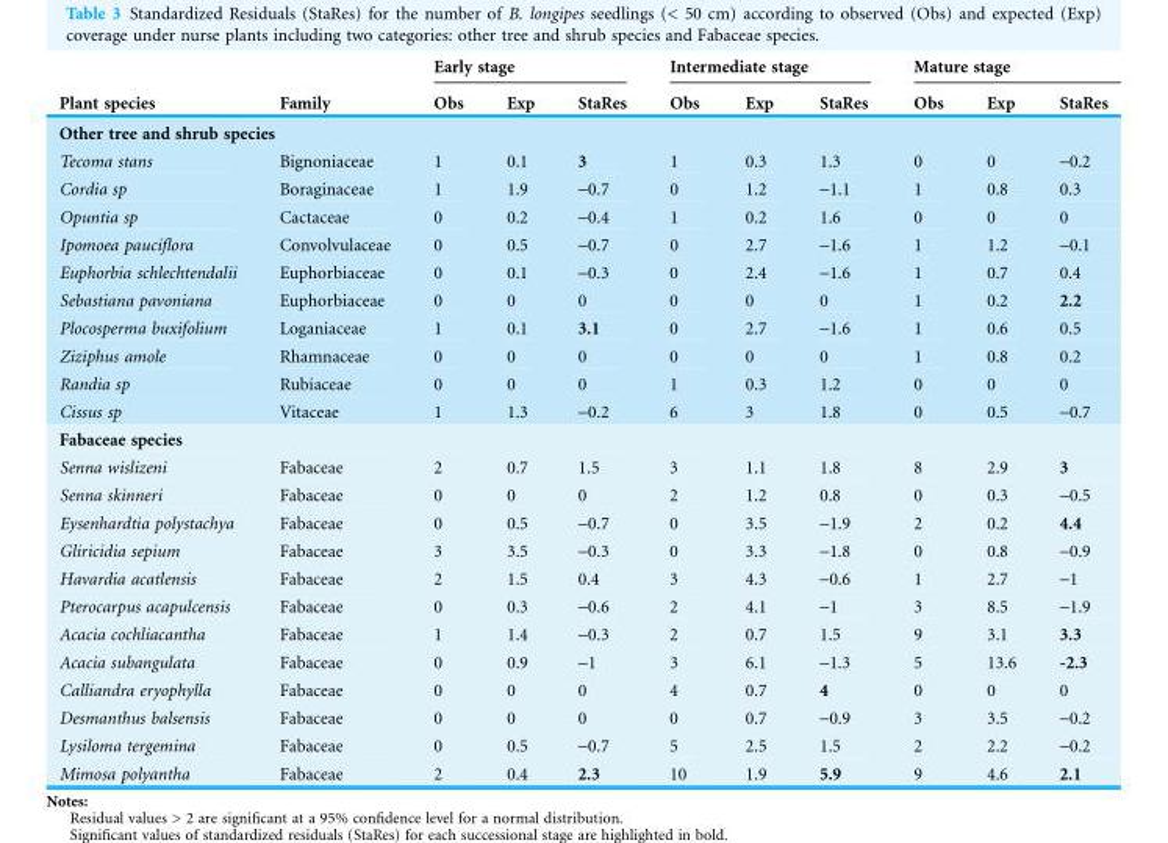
<table><thead><tr><td rowspan="2">Plant species</td><td rowspan="2">Family</td><td colspan="3">Early stage</td><td colspan="3">Intermediate stage</td><td colspan="3">Mature stage</td></tr><tr><td>Obs</td><td>Exp</td><td>StaRes</td><td>Obs</td><td>Exp</td><td>StaRes</td><td>Obs</td><td>Exp</td><td>StaRes</td></tr></thead><tbody><tr><td colspan="11">Other tree and shrub species</td></tr><tr><td>Tecoma stans</td><td>Bignoniaceae</td><td>1</td><td>0.1</td><td>3</td><td>1</td><td>0.3</td><td>1.3</td><td>0</td><td>0</td><td>-0.2</td></tr><tr><td>Cordia sp</td><td>Boraginaceae</td><td>1</td><td>1.9</td><td>-0.7</td><td>0</td><td>1.2</td><td>-1.1</td><td>1</td><td>0.8</td><td>0.3</td></tr><tr><td>Opuntia sp</td><td>Cactaceae</td><td>0</td><td>0.2</td><td>-0.4</td><td>1</td><td>0.2</td><td>1.6</td><td>0</td><td>0</td><td>0</td></tr><tr><td>Ipomoea pauciflora</td><td>Convolvulaceae</td><td>0</td><td>0.5</td><td>-0.7</td><td>0</td><td>2.7</td><td>-1.6</td><td>1</td><td>1.2</td><td>-0.1</td></tr><tr><td>Euphorbia schlechtendalii</td><td>Euphorbiaceae</td><td>0</td><td>0.1</td><td>-0.3</td><td>0</td><td>2.4</td><td>-1.6</td><td>1</td><td>0.7</td><td>0.4</td></tr><tr><td>Sebastiana pavoniana</td><td>Euphorbiaceae</td><td>0</td><td>0</td><td>0</td><td>0</td><td>0</td><td>0</td><td>1</td><td>0.2</td><td>2.2</td></tr><tr><td>Plocosperma buxifolium</td><td>Loganiaceae</td><td>1</td><td>0.1</td><td>3.1</td><td>0</td><td>2.7</td><td>-1.6</td><td>1</td><td>0.6</td><td>0.5</td></tr><tr><td>Ziziphus amole</td><td>Rhamnaceae</td><td>0</td><td>0</td><td>0</td><td>0</td><td>0</td><td>0</td><td>1</td><td>0.8</td><td>0.2</td></tr><tr><td>Randia sp</td><td>Rubiaceae</td><td>0</td><td>0</td><td>0</td><td>1</td><td>0.3</td><td>1.2</td><td>0</td><td>0</td><td>0</td></tr><tr><td>Cissus sp</td><td>Vitaceae</td><td>1</td><td>1.3</td><td>-0.2</td><td>6</td><td>3</td><td>1.8</td><td>0</td><td>0.5</td><td>-0.7</td></tr><tr><td colspan="11">Fabaceae species</td></tr><tr><td>Senna wislizeni</td><td>Fabaceae</td><td>2</td><td>0.7</td><td>1.5</td><td>3</td><td>1.1</td><td>1.8</td><td>8</td><td>2.9</td><td>3</td></tr><tr><td>Senna skinneri</td><td>Fabaceae</td><td>0</td><td>0</td><td>0</td><td>2</td><td>1.2</td><td>0.8</td><td>0</td><td>0.3</td><td>-0.5</td></tr><tr><td>Eysenhardtia polystachya</td><td>Fabaceae</td><td>0</td><td>0.5</td><td>-0.7</td><td>0</td><td>3.5</td><td>-1.9</td><td>2</td><td>0.2</td><td>4.4</td></tr><tr><td>Gliricidia sepium</td><td>Fabaceae</td><td>3</td><td>3.5</td><td>-0.3</td><td>0</td><td>3.3</td><td>-1.8</td><td>0</td><td>0.8</td><td>-0.9</td></tr><tr><td>Havardia acatlensis</td><td>Fabaceae</td><td>2</td><td>1.5</td><td>0.4</td><td>3</td><td>4.3</td><td>-0.6</td><td>1</td><td>2.7</td><td>-1</td></tr><tr><td>Pterocarpus acapulcensis</td><td>Fabaceae</td><td>0</td><td>0.3</td><td>-0.6</td><td>2</td><td>4.1</td><td>-1</td><td>3</td><td>8.5</td><td>-1.9</td></tr><tr><td>Acacia cochliacantha</td><td>Fabaceae</td><td>1</td><td>1.4</td><td>-0.3</td><td>2</td><td>0.7</td><td>1.5</td><td>9</td><td>3.1</td><td>3.3</td></tr><tr><td>Acacia subangulata</td><td>Fabaceae</td><td>0</td><td>0.9</td><td>-1</td><td>3</td><td>6.1</td><td>-1.3</td><td>5</td><td>13.6</td><td>-2.3</td></tr><tr><td>Calliandra eryophylla</td><td>Fabaceae</td><td>0</td><td>0</td><td>0</td><td>4</td><td>0.7</td><td>4</td><td>0</td><td>0</td><td>0</td></tr><tr><td>Desmanthus balsensis</td><td>Fabaceae</td><td>0</td><td>0</td><td>0</td><td>0</td><td>0.7</td><td>-0.9</td><td>3</td><td>3.5</td><td>-0.2</td></tr><tr><td>Lysiloma tergemina</td><td>Fabaceae</td><td>0</td><td>0.5</td><td>-0.7</td><td>5</td><td>2.5</td><td>1.5</td><td>2</td><td>2.2</td><td>-0.2</td></tr><tr><td>Mimosa polyantha</td><td>Fabaceae</td><td>2</td><td>0.4</td><td>2.3</td><td>10</td><td>1.9</td><td>5.9</td><td>9</td><td>4.6</td><td>2.1</td></tr></tbody></table>